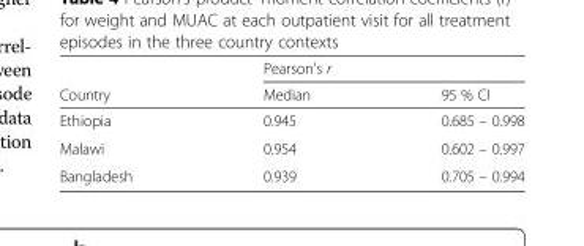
<table><thead><tr><td rowspan="2">Country</td><td colspan="2">Pearson&#x27;s r</td></tr><tr><td>Median</td><td>95 % CI</td></tr></thead><tbody><tr><td>Ethiopia</td><td>0.945</td><td>0.685 – 0.998</td></tr><tr><td>Malawi</td><td>0.954</td><td>0.602 – 0.997</td></tr><tr><td>Bangladesh</td><td>0.939</td><td>0.705 – 0.994</td></tr></tbody></table>